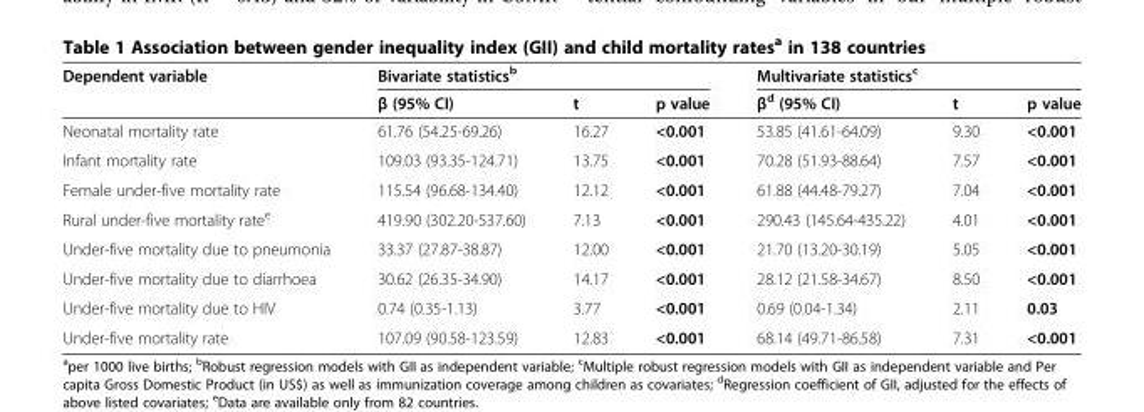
<table><thead><tr><td rowspan="2">Dependent variable</td><td colspan="3">Bivariate statistics<sup>b</sup></td><td colspan="3">Multivariate statistics<sup>c</sup></td></tr><tr><td>β (95% CI)</td><td>t</td><td>p value</td><td>β<sup>d</sup> (95% CI)</td><td>t</td><td>p value</td></tr></thead><tbody><tr><td>Neonatal mortality rate</td><td>61.76 (54.25-69.26)</td><td>16.27</td><td>&lt;0.001</td><td>53.85 (41.61-64.09)</td><td>9.30</td><td>&lt;0.001</td></tr><tr><td>Infant mortality rate</td><td>109.03 (93.35-124.71)</td><td>13.75</td><td>&lt;0.001</td><td>70.28 (51.93-88.64)</td><td>7.57</td><td>&lt;0.001</td></tr><tr><td>Female under-five mortality rate</td><td>115.54 (96.68-134.40)</td><td>12.12</td><td>&lt;0.001</td><td>61.88 (44.48-79.27)</td><td>7.04</td><td>&lt;0.001</td></tr><tr><td>Rural under-five mortality rate<sup>e</sup></td><td>419.90 (302.20-537.60)</td><td>7.13</td><td>&lt;0.001</td><td>290.43 (145.64-435.22)</td><td>4.01</td><td>&lt;0.001</td></tr><tr><td>Under-five mortality due to pneumonia</td><td>33.37 (27.87-38.87)</td><td>12.00</td><td>&lt;0.001</td><td>21.70 (13.20-30.19)</td><td>5.05</td><td>&lt;0.001</td></tr><tr><td>Under-five mortality due to diarrhoea</td><td>30.62 (26.35-34.90)</td><td>14.17</td><td>&lt;0.001</td><td>28.12 (21.58-34.67)</td><td>8.50</td><td>&lt;0.001</td></tr><tr><td>Under-five mortality due to HIV</td><td>0.74 (0.35-1.13)</td><td>3.77</td><td>&lt;0.001</td><td>0.69 (0.04-1.34)</td><td>2.11</td><td>0.03</td></tr><tr><td>Under-five mortality rate</td><td>107.09 (90.58-123.59)</td><td>12.83</td><td>&lt;0.001</td><td>68.14 (49.71-86.58)</td><td>7.31</td><td>&lt;0.001</td></tr></tbody></table>